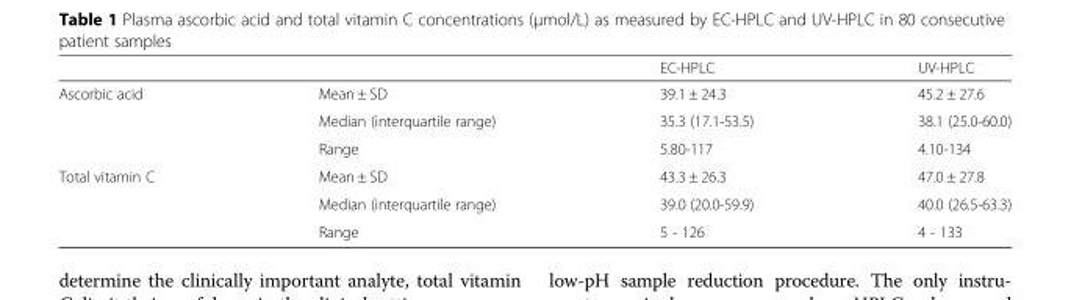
<table><thead><tr><td></td><td></td><td>EC-HPLC</td><td>UV-HPLC</td></tr></thead><tbody><tr><td rowspan="3">Ascorbic acid</td><td>Mean ± SD</td><td>39.1 ± 24.3</td><td>45.2 ± 27.6</td></tr><tr><td>Median (interquartile range)</td><td>35.3 (17.1-53.5)</td><td>38.1 (25.0-60.0)</td></tr><tr><td>Range</td><td>5.80-117</td><td>4.10-134</td></tr><tr><td rowspan="3">Total vitamin C</td><td>Mean ± SD</td><td>43.3 ± 26.3</td><td>47.0 ± 27.8</td></tr><tr><td>Median (interquartile range)</td><td>39.0 (20.0-59.9)</td><td>40.0 (26.5-63.3)</td></tr><tr><td>Range</td><td>5 - 126</td><td>4 - 133</td></tr></tbody></table>